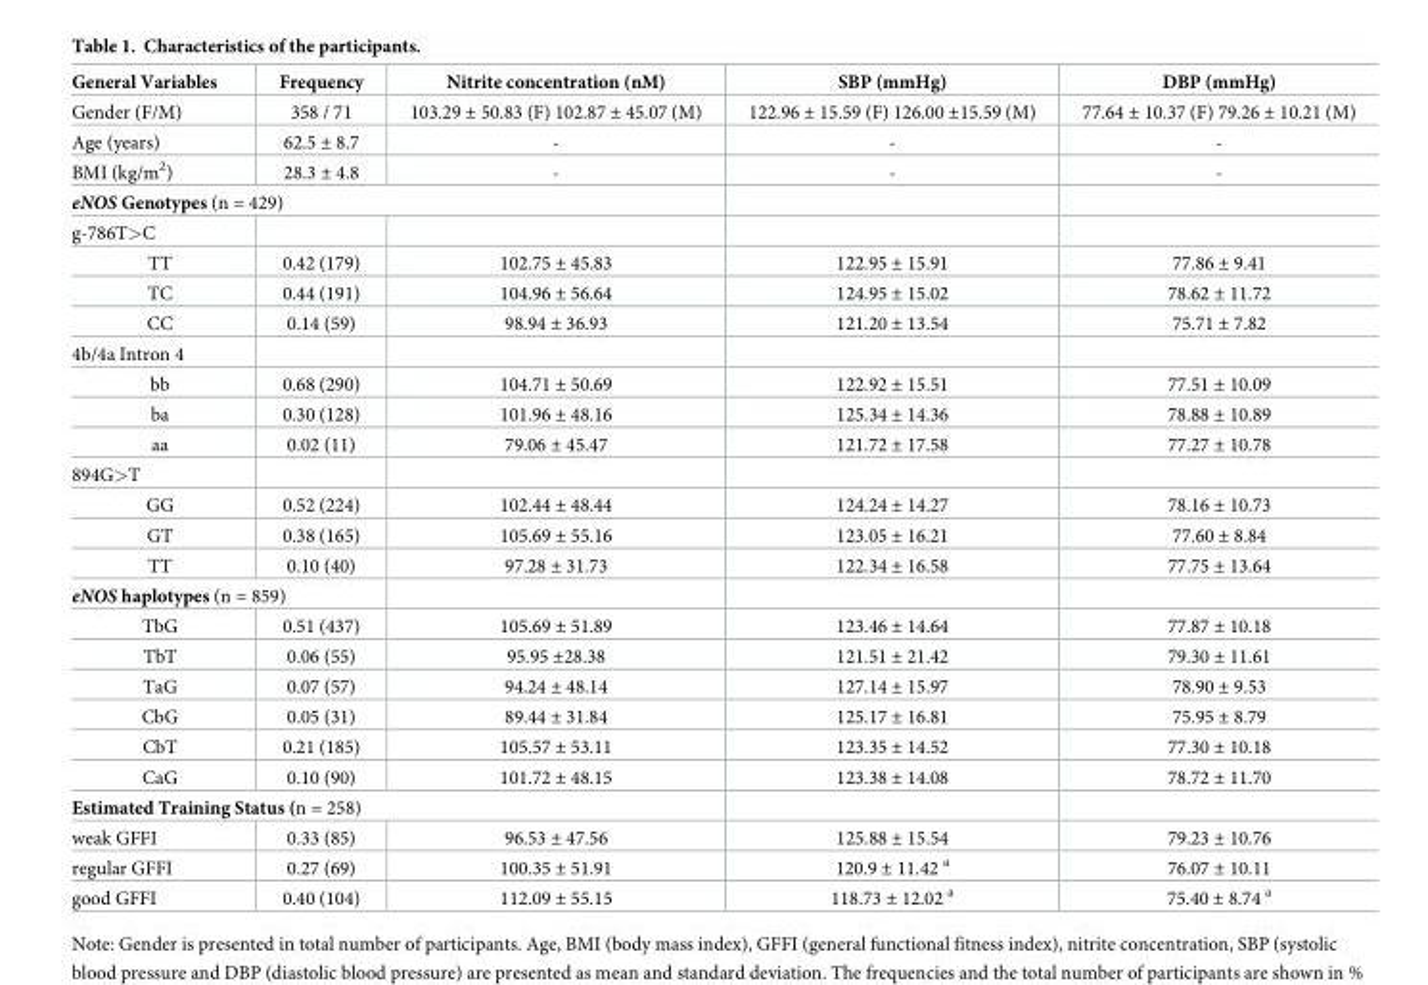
<table><thead><tr><td>General Variables</td><td>Frequency</td><td>Nitrite concentration (nM)</td><td>SBP (mmHg)</td><td>DBP (mmHg)</td></tr></thead><tbody><tr><td>Gender (F/M)</td><td>358 / 71</td><td>103.29 ± 50.83 (F) 102.87 ± 45.07 (M)</td><td>122.96 ± 15.59 (F) 126.00 ±15.59 (M)</td><td>77.64 ± 10.37 (F) 79.26 ± 10.21 (M)</td></tr><tr><td>Age (years)</td><td>62.5 ± 8.7</td><td>-</td><td>-</td><td>-</td></tr><tr><td>BMI (kg/m<sup>2</sup>)</td><td>28.3 ± 4.8</td><td>-</td><td>-</td><td>-</td></tr><tr><td colspan="5">eNOS Genotypes (n = 429)</td></tr><tr><td colspan="5">g-786T&gt;C</td></tr><tr><td>TT</td><td>0.42 (179)</td><td>102.75 ± 45.83</td><td>122.95 ± 15.91</td><td>77.86 ± 9.41</td></tr><tr><td>TC</td><td>0.44 (191)</td><td>104.96 ± 56.64</td><td>124.95 ± 15.02</td><td>78.62 ± 11.72</td></tr><tr><td>CC</td><td>0.14 (59)</td><td>98.94 ± 36.93</td><td>121.20 ± 13.54</td><td>75.71 ± 7.82</td></tr><tr><td colspan="5">4b/4a Intron 4</td></tr><tr><td>bb</td><td>0.68 (290)</td><td>104.71 ± 50.69</td><td>122.92 ± 15.51</td><td>77.51 ± 10.09</td></tr><tr><td>ba</td><td>0.30 (128)</td><td>101.96 ± 48.16</td><td>125.34 ± 14.36</td><td>78.88 ± 10.89</td></tr><tr><td>aa</td><td>0.02 (11)</td><td>79.06 ± 45.47</td><td>121.72 ± 17.58</td><td>77.27 ± 10.78</td></tr><tr><td colspan="5">894G&gt;T</td></tr><tr><td>GG</td><td>0.52 (224)</td><td>102.44 ± 48.44</td><td>124.24 ± 14.27</td><td>78.16 ± 10.73</td></tr><tr><td>GT</td><td>0.38 (165)</td><td>105.69 ± 55.16</td><td>123.05 ± 16.21</td><td>77.60 ± 8.84</td></tr><tr><td>TT</td><td>0.10 (40)</td><td>97.28 ± 31.73</td><td>122.34 ± 16.58</td><td>77.75 ± 13.64</td></tr><tr><td colspan="5">eNOS haplotypes (n = 859)</td></tr><tr><td>TbG</td><td>0.51 (437)</td><td>105.69 ± 51.89</td><td>123.46 ± 14.64</td><td>77.87 ± 10.18</td></tr><tr><td>TbT</td><td>0.06 (55)</td><td>95.95 ±28.38</td><td>121.51 ± 21.42</td><td>79.30 ± 11.61</td></tr><tr><td>TaG</td><td>0.07 (57)</td><td>94.24 ± 48.14</td><td>127.14 ± 15.97</td><td>78.90 ± 9.53</td></tr><tr><td>CbG</td><td>0.05 (31)</td><td>89.44 ± 31.84</td><td>125.17 ± 16.81</td><td>75.95 ± 8.79</td></tr><tr><td>CbT</td><td>0.21 (185)</td><td>105.57 ± 53.11</td><td>123.35 ± 14.52</td><td>77.30 ± 10.18</td></tr><tr><td>CaG</td><td>0.10 (90)</td><td>101.72 ± 48.15</td><td>123.38 ± 14.08</td><td>78.72 ± 11.70</td></tr><tr><td colspan="5">Estimated Training Status (n = 258)</td></tr><tr><td>weak GFFI</td><td>0.33 (85)</td><td>96.53 ± 47.56</td><td>125.88 ± 15.54</td><td>79.23 ± 10.76</td></tr><tr><td>regular GFFI</td><td>0.27 (69)</td><td>100.35 ± 51.91</td><td>120.9 ± 11.42 <sup>a</sup></td><td>76.07 ± 10.11</td></tr><tr><td>good GFFI</td><td>0.40 (104)</td><td>112.09 ± 55.15</td><td>118.73 ± 12.02 <sup>a</sup></td><td>75.40 ± 8.74 <sup>a</sup></td></tr></tbody></table>